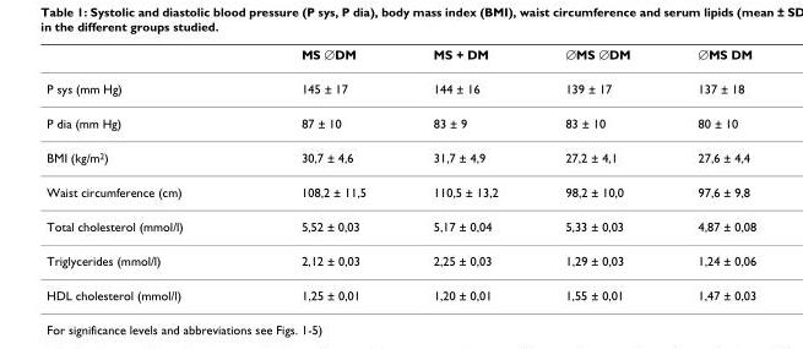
<table><thead><tr><td></td><td>MS ∅DM</td><td>MS + DM</td><td>∅MS ∅DM</td><td>∅MS DM</td></tr></thead><tbody><tr><td>P sys (mm Hg)</td><td>145 ± 17</td><td>144 ± 16</td><td>139 ± 17</td><td>137 ± 18</td></tr><tr><td>P dia (mm Hg)</td><td>87 ± 10</td><td>83 ± 9</td><td>83 ± 10</td><td>80 ± 10</td></tr><tr><td>BMI (kg/m<sup>2</sup>)</td><td>30,7 ± 4,6</td><td>31,7 ± 4,9</td><td>27,2 ± 4,1</td><td>27,6 ± 4,4</td></tr><tr><td>Waist circumference (cm)</td><td>108,2 ± 11,5</td><td>110,5 ± 13,2</td><td>98,2 ± 10,0</td><td>97,6 ± 9,8</td></tr><tr><td>Total cholesterol (mmol/l)</td><td>5,52 ± 0,03</td><td>5,17 ± 0,04</td><td>5,33 ± 0,03</td><td>4,87 ± 0,08</td></tr><tr><td>Triglycerides (mmol/l)</td><td>2,12 ± 0,03</td><td>2,25 ± 0,03</td><td>1,29 ± 0,03</td><td>1,24 ± 0,06</td></tr><tr><td>HDL cholesterol (mmol/l)</td><td>1,25 ± 0,01</td><td>1,20 ± 0,01</td><td>1,55 ± 0,01</td><td>1,47 ± 0,03</td></tr></tbody></table>